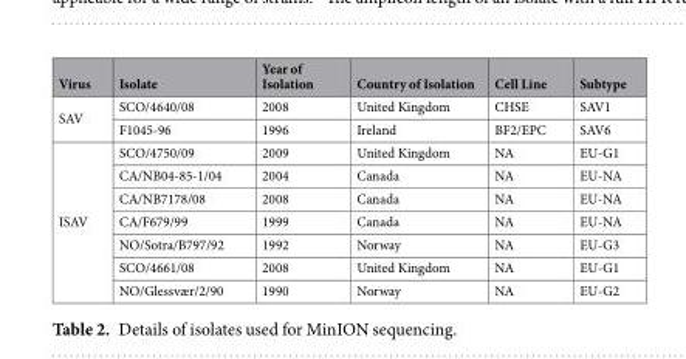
<table><thead><tr><td>Virus</td><td>Isolate</td><td>Year of Isolation</td><td>Country of Isolation</td><td>Cell Line</td><td>Subtype</td></tr></thead><tbody><tr><td rowspan="2">SAV</td><td>SCO/4640/08</td><td>2008</td><td>United Kingdom</td><td>CHSE</td><td>SAV1</td></tr><tr><td>F1045-96</td><td>1996</td><td>Ireland</td><td>BF2/EPC</td><td>SAV6</td></tr><tr><td rowspan="7">ISAV</td><td>SCO/4750/09</td><td>2009</td><td>United Kingdom</td><td>NA</td><td>EU-G1</td></tr><tr><td>CA/NB04-85-1/04</td><td>2004</td><td>Canada</td><td>NA</td><td>EU-NA</td></tr><tr><td>CA/NB7178/08</td><td>2008</td><td>Canada</td><td>NA</td><td>EU-NA</td></tr><tr><td>CA/F679/99</td><td>1999</td><td>Canada</td><td>NA</td><td>EU-NA</td></tr><tr><td>NO/Sotra/B797/92</td><td>1992</td><td>Norway</td><td>NA</td><td>EU-G3</td></tr><tr><td>SCO/4661/08</td><td>2008</td><td>United Kingdom</td><td>NA</td><td>EU-G1</td></tr><tr><td>NO/Glessvær/2/90</td><td>1990</td><td>Norway</td><td>NA</td><td>EU-G2</td></tr></tbody></table>